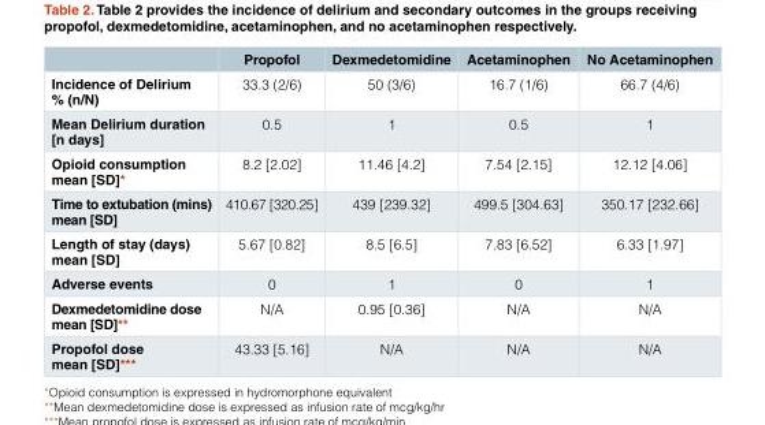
<table><thead><tr><td></td><td>Propofol</td><td>Dexmedetomidine</td><td>Acetaminophen</td><td>No Acetaminophen</td></tr></thead><tbody><tr><td>Incidence of Delirium % (n/N)</td><td>33.3 (2/6)</td><td>50 (3/6)</td><td>16.7 (1/6)</td><td>66.7 (4/6)</td></tr><tr><td>Mean Delirium duration [n days]</td><td>0.5</td><td>1</td><td>0.5</td><td>1</td></tr><tr><td>Opioid consumption mean [SD]*</td><td>8.2 [2.02]</td><td>11.46 [4.2]</td><td>7.54 [2.15]</td><td>12.12 [4.06]</td></tr><tr><td>Time to extubation (mins) mean [SD]</td><td>410.67 [320.25]</td><td>439 [239.32]</td><td>499.5 [304.63]</td><td>350.17 [232.66]</td></tr><tr><td>Length of stay (days) mean [SD]</td><td>5.67 [0.82]</td><td>8.5 [6.5]</td><td>7.83 [6.52]</td><td>6.33 [1.97]</td></tr><tr><td>Adverse events</td><td>0</td><td>1</td><td>0</td><td>1</td></tr><tr><td>Dexmedetomidine dose mean [SD]**</td><td>N/A</td><td>0.95 [0.36]</td><td>N/A</td><td>N/A</td></tr><tr><td>Propofol dose mean [SD]***</td><td>43.33 [5.16]</td><td>N/A</td><td>N/A</td><td>N/A</td></tr></tbody></table>